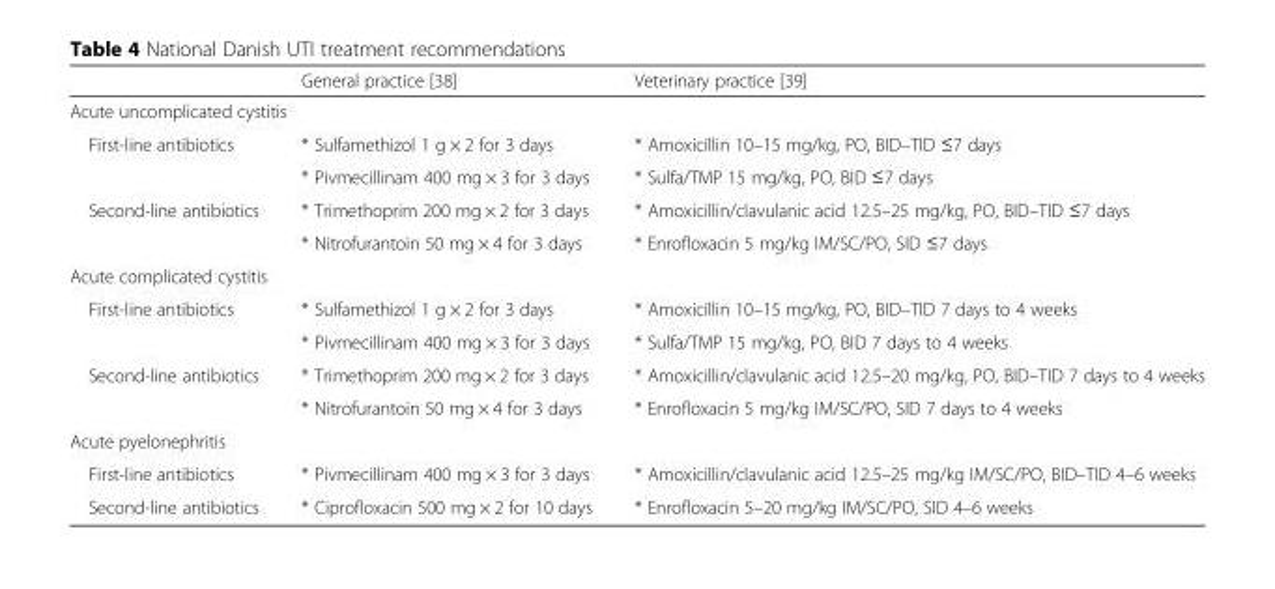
<table><thead><tr><td></td><td>General practice [38]</td><td>Veterinary practice [39]</td></tr></thead><tbody><tr><td colspan="3">Acute uncomplicated cystitis</td></tr><tr><td rowspan="2">First-line antibiotics</td><td>* Sulfamethizol 1 g × 2 for 3 days</td><td>* Amoxicillin 10–15 mg/kg, PO, BID–TID ≤7 days</td></tr><tr><td>* Pivmecillinam 400 mg × 3 for 3 days</td><td>* Sulfa/TMP 15 mg/kg, PO, BID ≤7 days</td></tr><tr><td rowspan="2">Second-line antibiotics</td><td>* Trimethoprim 200 mg × 2 for 3 days</td><td>* Amoxicillin/clavulanic acid 12.5–25 mg/kg, PO, BID–TID ≤7 days</td></tr><tr><td>* Nitrofurantoin 50 mg × 4 for 3 days</td><td>* Enrofloxacin 5 mg/kg IM/SC/PO, SID ≤7 days</td></tr><tr><td colspan="3">Acute complicated cystitis</td></tr><tr><td rowspan="2">First-line antibiotics</td><td>* Sulfamethizol 1 g × 2 for 3 days</td><td>* Amoxicillin 10–15 mg/kg, PO, BID–TID 7 days to 4 weeks</td></tr><tr><td>* Pivmecillinam 400 mg × 3 for 3 days</td><td>* Sulfa/TMP 15 mg/kg, PO, BID 7 days to 4 weeks</td></tr><tr><td rowspan="2">Second-line antibiotics</td><td>* Trimethoprim 200 mg × 2 for 3 days</td><td>* Amoxicillin/clavulanic acid 12.5–20 mg/kg, PO, BID–TID 7 days to 4 weeks</td></tr><tr><td>* Nitrofurantoin 50 mg × 4 for 3 days</td><td>* Enrofloxacin 5 mg/kg IM/SC/PO, SID 7 days to 4 weeks</td></tr><tr><td colspan="3">Acute pyelonephritis</td></tr><tr><td>First-line antibiotics</td><td>* Pivmecillinam 400 mg × 3 for 3 days</td><td>* Amoxicillin/clavulanic acid 12.5–25 mg/kg IM/SC/PO, BID–TID 4–6 weeks</td></tr><tr><td>Second-line antibiotics</td><td>* Ciprofloxacin 500 mg × 2 for 10 days</td><td>* Enrofloxacin 5–20 mg/kg IM/SC/PO, SID 4–6 weeks</td></tr></tbody></table>